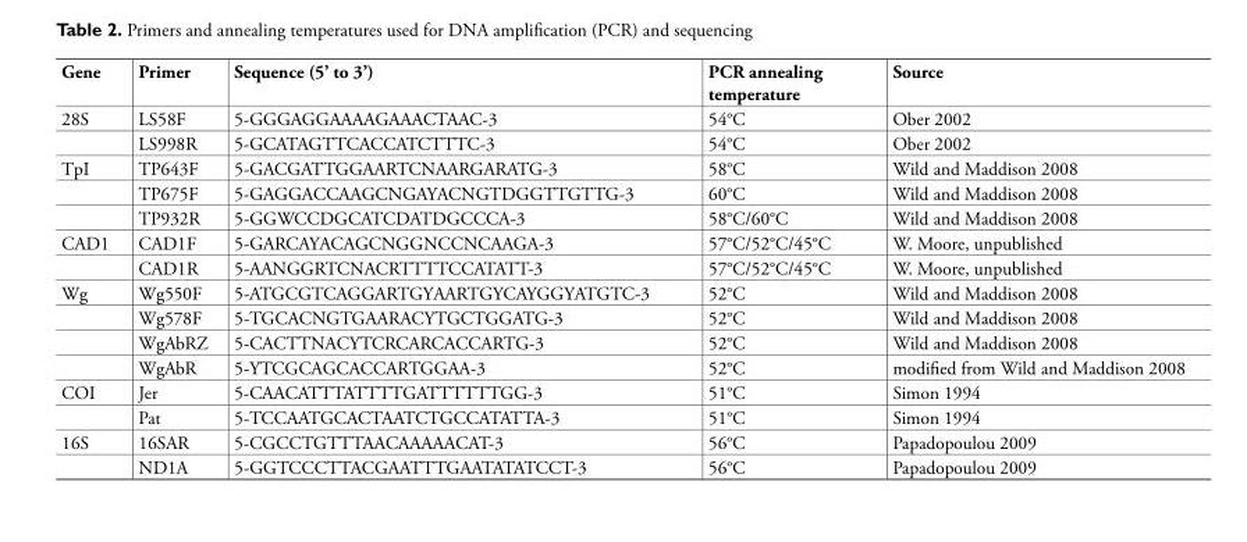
<table><tbody><tr><td>Gene</td><td>Primer</td><td>Sequence (5’ to 3’)</td><td>PCR annealing temperature</td><td>Source</td></tr><tr><td rowspan="2">28S</td><td>LS58F</td><td>5-GGGAGGAAAAGAAACTAAC-3</td><td>54°C</td><td>Ober 2002</td></tr><tr><td>LS998R</td><td>5-GCATAGTTCACCATCTTTC-3</td><td>54°C</td><td>Ober 2002</td></tr><tr><td rowspan="3">TpI</td><td>TP643F</td><td>5-GACGATTGGAARTCNAARGARATG-3</td><td>58°C</td><td>Wild and Maddison 2008</td></tr><tr><td>TP675F</td><td>5-GAGGACCAAGCNGAYACNGTDGGTTGTTG-3</td><td>60°C</td><td>Wild and Maddison 2008</td></tr><tr><td>TP932R</td><td>5-GGWCCDGCATCDATDGCCCA-3</td><td>58°C/60°C</td><td>Wild and Maddison 2008</td></tr><tr><td rowspan="2">CAD1</td><td>CAD1F</td><td>5-GARCAYACAGCNGGNCCNCAAGA-3</td><td>57°C/52°C/45°C</td><td>W. Moore, unpublished</td></tr><tr><td>CAD1R</td><td>5-AANGGRTCNACRTTTTCCATATT-3</td><td>57°C/52°C/45°C</td><td>W. Moore, unpublished</td></tr><tr><td rowspan="4">Wg</td><td>Wg550F</td><td>5-ATGCGTCAGGARTGYAARTGYCAYGGYATGTC-3</td><td>52°C</td><td>Wild and Maddison 2008</td></tr><tr><td>Wg578F</td><td>5-TGCACNGTGAARACYTGCTGGATG-3</td><td>52°C</td><td>Wild and Maddison 2008</td></tr><tr><td>WgAbRZ</td><td>5-CACTTNACYTCRCARCACCARTG-3</td><td>52°C</td><td>Wild and Maddison 2008</td></tr><tr><td>WgAbR</td><td>5-YTCGCAGCACCARTGGAA-3</td><td>52°C</td><td>modified from Wild and Maddison 2008</td></tr><tr><td rowspan="2">COI</td><td>Jer</td><td>5-CAACATTTATTTTGATTTTTTGG-3</td><td>51°C</td><td>Simon 1994</td></tr><tr><td>Pat</td><td>5-TCCAATGCACTAATCTGCCATATTA-3</td><td>51°C</td><td>Simon 1994</td></tr><tr><td rowspan="2">16S</td><td>16SAR</td><td>5-CGCCTGTTTAACAAAAACAT-3</td><td>56°C</td><td>Papadopoulou 2009</td></tr><tr><td>ND1A</td><td>5-GGTCCCTTACGAATTTGAATATATCCT-3</td><td>56°C</td><td>Papadopoulou 2009</td></tr></tbody></table>